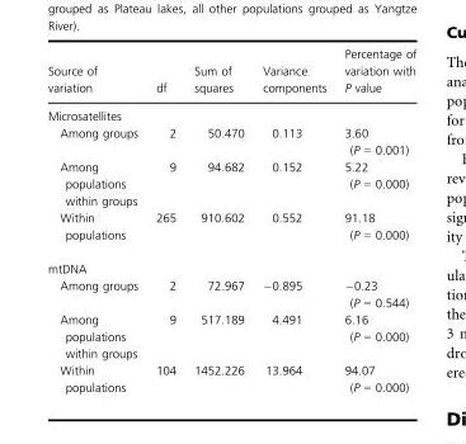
<table><thead><tr><td>Source of variation</td><td>df</td><td>Sum of squares</td><td>Variance components</td><td>Percentage of variation with P value</td></tr></thead><tbody><tr><td colspan="5">Microsatellites</td></tr><tr><td>Among groups</td><td>2</td><td>50.470</td><td>0.113</td><td>3.60 (P = 0.001)</td></tr><tr><td>Among populations within groups</td><td>9</td><td>94.682</td><td>0.152</td><td>5.22 (P = 0.000)</td></tr><tr><td>Within populations</td><td>265</td><td>910.602</td><td>0.552</td><td>91.18 (P = 0.000)</td></tr><tr><td colspan="5">mtDNA</td></tr><tr><td>Among groups</td><td>2</td><td>72.967</td><td>−0.895</td><td>−0.23 (P = 0.544)</td></tr><tr><td>Among populations within groups</td><td>9</td><td>517.189</td><td>4.491</td><td>6.16 (P = 0.000)</td></tr><tr><td>Within populations</td><td>104</td><td>1452.226</td><td>13.964</td><td>94.07 (P = 0.000)</td></tr></tbody></table>